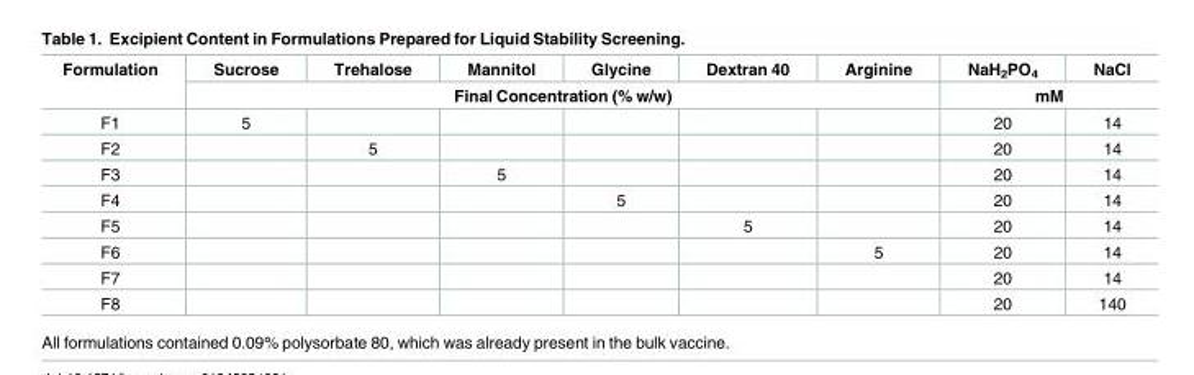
<table><thead><tr><td rowspan="2">Formulation</td><td>Sucrose</td><td>Trehalose</td><td>Mannitol</td><td>Glycine</td><td>Dextran 40</td><td>Arginine</td><td>NaH<sub>2</sub>PO<sub>4</sub></td><td>NaCl</td></tr><tr><td colspan="6">Final Concentration (% w/w)</td><td colspan="2">mM</td></tr></thead><tbody><tr><td>F1</td><td>5</td><td></td><td></td><td></td><td></td><td></td><td>20</td><td>14</td></tr><tr><td>F2</td><td></td><td>5</td><td></td><td></td><td></td><td></td><td>20</td><td>14</td></tr><tr><td>F3</td><td></td><td></td><td>5</td><td></td><td></td><td></td><td>20</td><td>14</td></tr><tr><td>F4</td><td></td><td></td><td></td><td>5</td><td></td><td></td><td>20</td><td>14</td></tr><tr><td>F5</td><td></td><td></td><td></td><td></td><td>5</td><td></td><td>20</td><td>14</td></tr><tr><td>F6</td><td></td><td></td><td></td><td></td><td></td><td>5</td><td>20</td><td>14</td></tr><tr><td>F7</td><td></td><td></td><td></td><td></td><td></td><td></td><td>20</td><td>14</td></tr><tr><td>F8</td><td></td><td></td><td></td><td></td><td></td><td></td><td>20</td><td>140</td></tr></tbody></table>